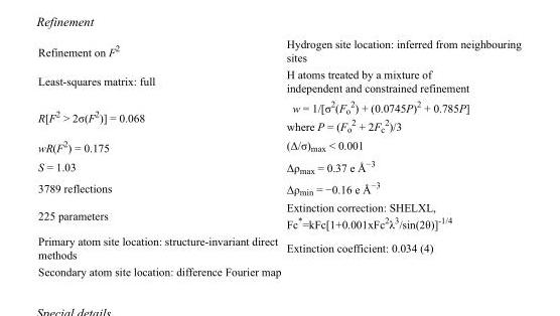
<table><tbody><tr><td>Refinement on F<sup>2</sup></td><td>Hydrogen site location: inferred from neighbouring sites</td></tr><tr><td>Least-squares matrix: full</td><td>H atoms treated by a mixture of independent and constrained refinement</td></tr><tr><td>R[F<sup>2</sup> &gt; 2σ(F<sup>2</sup>)] = 0.068</td><td>w = 1/[σ<sup>2</sup>(F<sub>o</sub> <sup>2</sup>) + (0.0745P)<sup>2</sup> + 0.785P] where P = (F<sub>o</sub> <sup>2</sup> + 2F<sub>c</sub> <sup>2</sup>)/3</td></tr><tr><td>wR(F<sup>2</sup>) = 0.175</td><td>(Δ/σ)<sub>max</sub> &lt; 0.001</td></tr><tr><td>S = 1.03</td><td>Δρ<sub>max</sub> = 0.37 e Å<sup>−3</sup></td></tr><tr><td>3789 reflections</td><td>Δρ<sub>min</sub> = −0.16 e Å<sup>−3</sup></td></tr><tr><td>225 parameters</td><td>Extinction correction: SHELXL, Fc*=kFc[1+0.001xFc<sup>2</sup>λ<sup>3</sup>/sin(2θ)]<sup>-1/4</sup></td></tr><tr><td>Primary atom site location: structure-invariant direct methods</td><td>Extinction coefficient: 0.034 (4)</td></tr><tr><td>Secondary atom site location: difference Fourier map</td><td></td></tr></tbody></table>